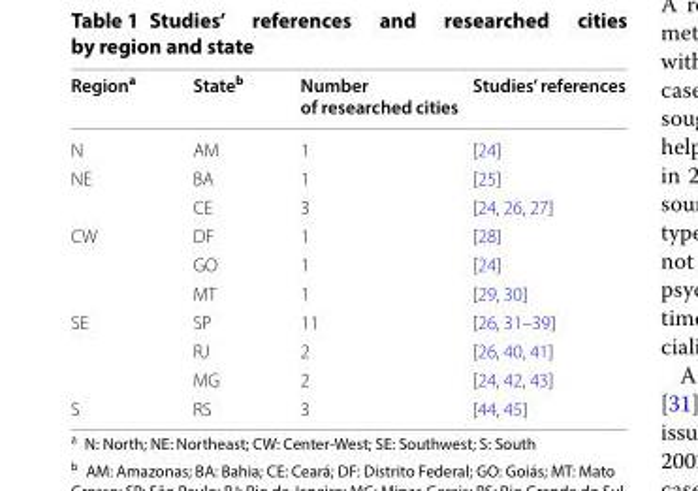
<table><thead><tr><td>Region<sup>a</sup></td><td>State<sup>b</sup></td><td>Number of researched cities</td><td>Studies’ references</td></tr></thead><tbody><tr><td>N</td><td>AM</td><td>1</td><td>[24]</td></tr><tr><td rowspan="2">NE</td><td>BA</td><td>1</td><td>[25]</td></tr><tr><td>CE</td><td>3</td><td>[24, 26, 27]</td></tr><tr><td rowspan="3">CW</td><td>DF</td><td>1</td><td>[28]</td></tr><tr><td>GO</td><td>1</td><td>[24]</td></tr><tr><td>MT</td><td>1</td><td>[29, 30]</td></tr><tr><td rowspan="3">SE</td><td>SP</td><td>11</td><td>[26, 31–39]</td></tr><tr><td>RJ</td><td>2</td><td>[26, 40, 41]</td></tr><tr><td>MG</td><td>2</td><td>[24, 42, 43]</td></tr><tr><td>S</td><td>RS</td><td>3</td><td>[44, 45]</td></tr></tbody></table>